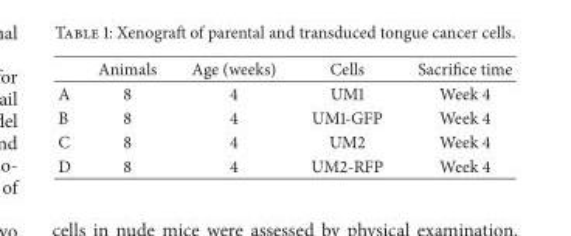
<table><thead><tr><td></td><td>Animals</td><td>Age (weeks)</td><td>Cells</td><td>Sacrifice time</td></tr></thead><tbody><tr><td>A</td><td>8</td><td>4</td><td>UM1</td><td>Week 4</td></tr><tr><td>B</td><td>8</td><td>4</td><td>UM1-GFP</td><td>Week 4</td></tr><tr><td>C</td><td>8</td><td>4</td><td>UM2</td><td>Week 4</td></tr><tr><td>D</td><td>8</td><td>4</td><td>UM2-RFP</td><td>Week 4</td></tr></tbody></table>